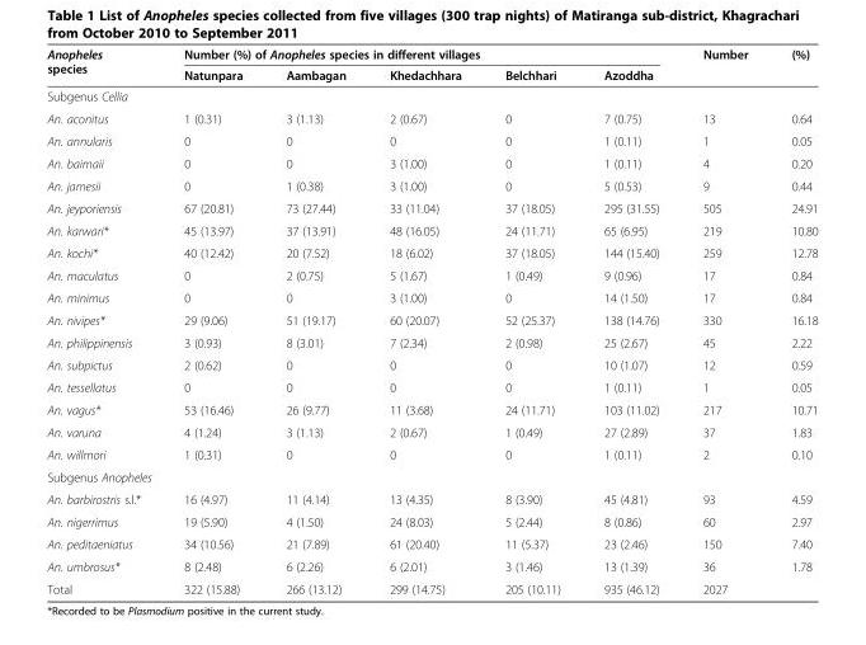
<table><thead><tr><td rowspan="2">Anopheles species</td><td colspan="5">Number (%) of Anopheles species in different villages</td><td rowspan="2">Number</td><td rowspan="2">(%)</td></tr><tr><td>Natunpara</td><td>Aambagan</td><td>Khedachhara</td><td>Belchhari</td><td>Azoddha</td></tr></thead><tbody><tr><td colspan="8">Subgenus Cellia</td></tr><tr><td>An. aconitus</td><td>1 (0.31)</td><td>3 (1.13)</td><td>2 (0.67)</td><td>0</td><td>7 (0.75)</td><td>13</td><td>0.64</td></tr><tr><td>An. annularis</td><td>0</td><td>0</td><td>0</td><td>0</td><td>1 (0.11)</td><td>1</td><td>0.05</td></tr><tr><td>An. baimaii</td><td>0</td><td>0</td><td>3 (1.00)</td><td>0</td><td>1 (0.11)</td><td>4</td><td>0.20</td></tr><tr><td>An. jamesii</td><td>0</td><td>1 (0.38)</td><td>3 (1.00)</td><td>0</td><td>5 (0.53)</td><td>9</td><td>0.44</td></tr><tr><td>An. jeyporiensis</td><td>67 (20.81)</td><td>73 (27.44)</td><td>33 (11.04)</td><td>37 (18.05)</td><td>295 (31.55)</td><td>505</td><td>24.91</td></tr><tr><td>An. karwari*</td><td>45 (13.97)</td><td>37 (13.91)</td><td>48 (16.05)</td><td>24 (11.71)</td><td>65 (6.95)</td><td>219</td><td>10.80</td></tr><tr><td>An. kochi*</td><td>40 (12.42)</td><td>20 (7.52)</td><td>18 (6.02)</td><td>37 (18.05)</td><td>144 (15.40)</td><td>259</td><td>12.78</td></tr><tr><td>An. maculatus</td><td>0</td><td>2 (0.75)</td><td>5 (1.67)</td><td>1 (0.49)</td><td>9 (0.96)</td><td>17</td><td>0.84</td></tr><tr><td>An. minimus</td><td>0</td><td>0</td><td>3 (1.00)</td><td>0</td><td>14 (1.50)</td><td>17</td><td>0.84</td></tr><tr><td>An. nivipes*</td><td>29 (9.06)</td><td>51 (19.17)</td><td>60 (20.07)</td><td>52 (25.37)</td><td>138 (14.76)</td><td>330</td><td>16.18</td></tr><tr><td>An. philippinensis</td><td>3 (0.93)</td><td>8 (3.01)</td><td>7 (2.34)</td><td>2 (0.98)</td><td>25 (2.67)</td><td>45</td><td>2.22</td></tr><tr><td>An. subpictus</td><td>2 (0.62)</td><td>0</td><td>0</td><td>0</td><td>10 (1.07)</td><td>12</td><td>0.59</td></tr><tr><td>An. tessellatus</td><td>0</td><td>0</td><td>0</td><td>0</td><td>1 (0.11)</td><td>1</td><td>0.05</td></tr><tr><td>An. vagus*</td><td>53 (16.46)</td><td>26 (9.77)</td><td>11 (3.68)</td><td>24 (11.71)</td><td>103 (11.02)</td><td>217</td><td>10.71</td></tr><tr><td>An. varuna</td><td>4 (1.24)</td><td>3 (1.13)</td><td>2 (0.67)</td><td>1 (0.49)</td><td>27 (2.89)</td><td>37</td><td>1.83</td></tr><tr><td>An. willmori</td><td>1 (0.31)</td><td>0</td><td>0</td><td>0</td><td>1 (0.11)</td><td>2</td><td>0.10</td></tr><tr><td colspan="8">Subgenus Anopheles</td></tr><tr><td>An. barbirostris s.l.*</td><td>16 (4.97)</td><td>11 (4.14)</td><td>13 (4.35)</td><td>8 (3.90)</td><td>45 (4.81)</td><td>93</td><td>4.59</td></tr><tr><td>An. nigerrimus</td><td>19 (5.90)</td><td>4 (1.50)</td><td>24 (8.03)</td><td>5 (2.44)</td><td>8 (0.86)</td><td>60</td><td>2.97</td></tr><tr><td>An. peditaeniatus</td><td>34 (10.56)</td><td>21 (7.89)</td><td>61 (20.40)</td><td>11 (5.37)</td><td>23 (2.46)</td><td>150</td><td>7.40</td></tr><tr><td>An. umbrosus*</td><td>8 (2.48)</td><td>6 (2.26)</td><td>6 (2.01)</td><td>3 (1.46)</td><td>13 (1.39)</td><td>36</td><td>1.78</td></tr><tr><td>Total</td><td>322 (15.88)</td><td>266 (13.12)</td><td>299 (14.75)</td><td>205 (10.11)</td><td>935 (46.12)</td><td>2027</td><td></td></tr></tbody></table>